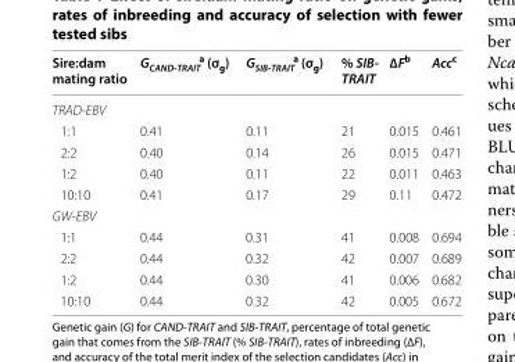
<table><thead><tr><td>Sire:dam mating ratio</td><td>G<sub>CAND-TRAIT</sub> <sup>a</sup> (σ<sub>g</sub>)</td><td>G<sub>SIB-TRAIT</sub> <sup>a</sup> (σ<sub>g</sub>)</td><td>% SIB- TRAIT</td><td>∆F<sup>b</sup></td><td>Acc<sup>c</sup></td></tr></thead><tbody><tr><td colspan="6">TRAD-EBV</td></tr><tr><td>1:1</td><td>0.41</td><td>0.11</td><td>21</td><td>0.015</td><td>0.461</td></tr><tr><td>2:2</td><td>0.40</td><td>0.14</td><td>26</td><td>0.015</td><td>0.471</td></tr><tr><td>1:2</td><td>0.40</td><td>0.11</td><td>22</td><td>0.011</td><td>0.463</td></tr><tr><td>10:10</td><td>0.41</td><td>0.17</td><td>29</td><td>0.11</td><td>0.472</td></tr><tr><td colspan="6">GW-EBV</td></tr><tr><td>1:1</td><td>0.44</td><td>0.31</td><td>41</td><td>0.008</td><td>0.694</td></tr><tr><td>2:2</td><td>0.44</td><td>0.32</td><td>42</td><td>0.007</td><td>0.689</td></tr><tr><td>1:2</td><td>0.44</td><td>0.30</td><td>41</td><td>0.006</td><td>0.682</td></tr><tr><td>10:10</td><td>0.44</td><td>0.32</td><td>42</td><td>0.005</td><td>0.672</td></tr></tbody></table>